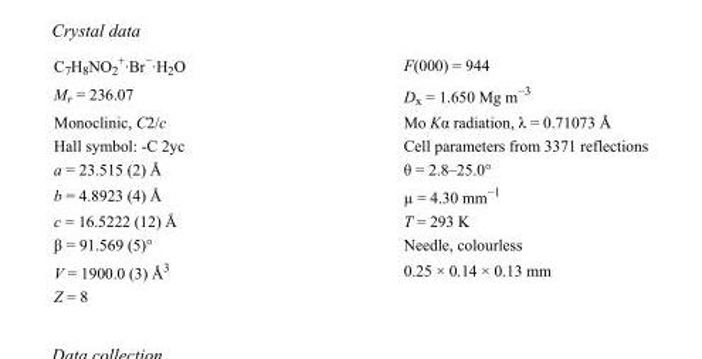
<table><tbody><tr><td>C<sub>7</sub>H<sub>8</sub>NO<sub>2</sub> <sup>+</sup>·Br<sup>−</sup>·H<sub>2</sub>O</td><td>F(000) = 944</td></tr><tr><td>M<sub>r</sub> = 236.07</td><td>D<sub>x</sub> = 1.650 Mg m<sup>−3</sup></td></tr><tr><td>Monoclinic, C2/c</td><td>Mo Kα radiation, λ = 0.71073 Å</td></tr><tr><td>Hall symbol: -C 2yc</td><td>Cell parameters from 3371 reflections</td></tr><tr><td>a = 23.515 (2) Å</td><td>θ = 2.8–25.0°</td></tr><tr><td>b = 4.8923 (4) Å</td><td>µ = 4.30 mm<sup>−1</sup></td></tr><tr><td>c = 16.5222 (12) Å</td><td>T = 293 K</td></tr><tr><td>β = 91.569 (5)°</td><td>Needle, colourless</td></tr><tr><td>V = 1900.0 (3) Å<sup>3</sup></td><td>0.25 × 0.14 × 0.13 mm</td></tr><tr><td>Z = 8</td><td></td></tr></tbody></table>